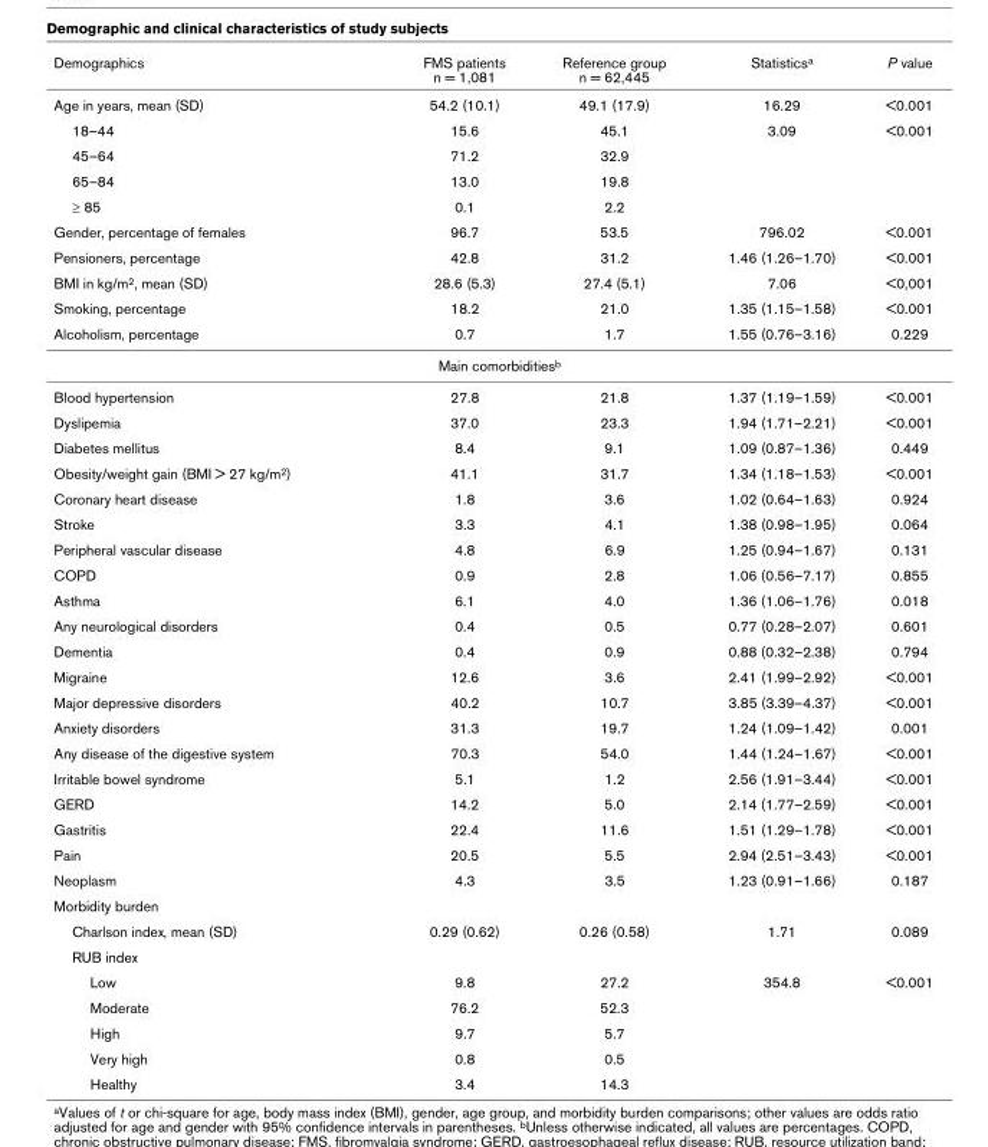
<table><thead><tr><td>Demographics</td><td>FMS patients n = 1,081</td><td>Reference group n = 62,445</td><td>Statistics<sup>a</sup></td><td>P value</td></tr></thead><tbody><tr><td>Age in years, mean (SD)</td><td>54.2 (10.1)</td><td>49.1 (17.9)</td><td>16.29</td><td>&lt;0.001</td></tr><tr><td>18–44</td><td>15.6</td><td>45.1</td><td>3.09</td><td>&lt;0.001</td></tr><tr><td>45–64</td><td>71.2</td><td>32.9</td><td></td><td></td></tr><tr><td>65–84</td><td>13.0</td><td>19.8</td><td></td><td></td></tr><tr><td>≥ 85</td><td>0.1</td><td>2.2</td><td></td><td></td></tr><tr><td>Gender, percentage of females</td><td>96.7</td><td>53.5</td><td>796.02</td><td>&lt;0.001</td></tr><tr><td>Pensioners, percentage</td><td>42.8</td><td>31.2</td><td>1.46 (1.26–1.70)</td><td>&lt;0.001</td></tr><tr><td>BMI in kg/m<sup>2</sup>, mean (SD)</td><td>28.6 (5.3)</td><td>27.4 (5.1)</td><td>7.06</td><td>&lt;0,001</td></tr><tr><td>Smoking, percentage</td><td>18.2</td><td>21.0</td><td>1.35 (1.15–1.58)</td><td>&lt;0.001</td></tr><tr><td>Alcoholism, percentage</td><td>0.7</td><td>1.7</td><td>1.55 (0.76–3.16)</td><td>0.229</td></tr><tr><td colspan="5">Main comorbidities<sup>b</sup></td></tr><tr><td>Blood hypertension</td><td>27.8</td><td>21.8</td><td>1.37 (1.19–1.59)</td><td>&lt;0.001</td></tr><tr><td>Dyslipemia</td><td>37.0</td><td>23.3</td><td>1.94 (1.71–2.21)</td><td>&lt;0.001</td></tr><tr><td>Diabetes mellitus</td><td>8.4</td><td>9.1</td><td>1.09 (0.87–1.36)</td><td>0.449</td></tr><tr><td>Obesity/weight gain (BMI &gt; 27 kg/m<sup>2</sup>)</td><td>41.1</td><td>31.7</td><td>1.34 (1.18–1.53)</td><td>&lt;0.001</td></tr><tr><td>Coronary heart disease</td><td>1.8</td><td>3.6</td><td>1.02 (0.64–1.63)</td><td>0.924</td></tr><tr><td>Stroke</td><td>3.3</td><td>4.1</td><td>1.38 (0.98–1.95)</td><td>0.064</td></tr><tr><td>Peripheral vascular disease</td><td>4.8</td><td>6.9</td><td>1.25 (0.94–1.67)</td><td>0.131</td></tr><tr><td>COPD</td><td>0.9</td><td>2.8</td><td>1.06 (0.56–7.17)</td><td>0.855</td></tr><tr><td>Asthma</td><td>6.1</td><td>4.0</td><td>1.36 (1.06–1.76)</td><td>0.018</td></tr><tr><td>Any neurological disorders</td><td>0.4</td><td>0.5</td><td>0.77 (0.28–2.07)</td><td>0.601</td></tr><tr><td>Dementia</td><td>0.4</td><td>0.9</td><td>0.88 (0.32–2.38)</td><td>0.794</td></tr><tr><td>Migraine</td><td>12.6</td><td>3.6</td><td>2.41 (1.99–2.92)</td><td>&lt;0.001</td></tr><tr><td>Major depressive disorders</td><td>40.2</td><td>10.7</td><td>3.85 (3.39–4.37)</td><td>&lt;0.001</td></tr><tr><td>Anxiety disorders</td><td>31.3</td><td>19.7</td><td>1.24 (1.09–1.42)</td><td>0.001</td></tr><tr><td>Any disease of the digestive system</td><td>70.3</td><td>54.0</td><td>1.44 (1.24–1.67)</td><td>&lt;0.001</td></tr><tr><td>Irritable bowel syndrome</td><td>5.1</td><td>1.2</td><td>2.56 (1.91–3.44)</td><td>&lt;0.001</td></tr><tr><td>GERD</td><td>14.2</td><td>5.0</td><td>2.14 (1.77–2.59)</td><td>&lt;0.001</td></tr><tr><td>Gastritis</td><td>22.4</td><td>11.6</td><td>1.51 (1.29–1.78)</td><td>&lt;0.001</td></tr><tr><td>Pain</td><td>20.5</td><td>5.5</td><td>2.94 (2.51–3.43)</td><td>&lt;0.001</td></tr><tr><td>Neoplasm</td><td>4.3</td><td>3.5</td><td>1.23 (0.91–1.66)</td><td>0.187</td></tr><tr><td colspan="5">Morbidity burden</td></tr><tr><td>Charlson index, mean (SD)</td><td>0.29 (0.62)</td><td>0.26 (0.58)</td><td>1.71</td><td>0.089</td></tr><tr><td colspan="5">RUB index</td></tr><tr><td>Low</td><td>9.8</td><td>27.2</td><td>354.8</td><td>&lt;0.001</td></tr><tr><td>Moderate</td><td>76.2</td><td>52.3</td><td></td><td></td></tr><tr><td>High</td><td>9.7</td><td>5.7</td><td></td><td></td></tr><tr><td>Very high</td><td>0.8</td><td>0.5</td><td></td><td></td></tr><tr><td>Healthy</td><td>3.4</td><td>14.3</td><td></td><td></td></tr></tbody></table>